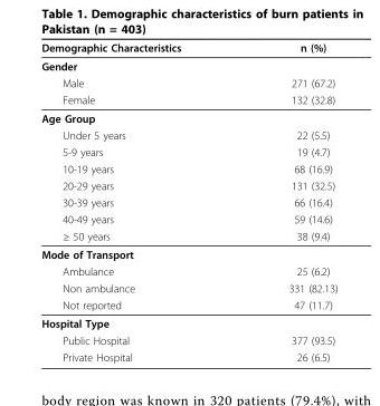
<table><thead><tr><td>Demographic Characteristics</td><td>n (%)</td></tr></thead><tbody><tr><td colspan="2">Gender</td></tr><tr><td>Male</td><td>271 (67.2)</td></tr><tr><td>Female</td><td>132 (32.8)</td></tr><tr><td colspan="2">Age Group</td></tr><tr><td>Under 5 years</td><td>22 (5.5)</td></tr><tr><td>5-9 years</td><td>19 (4.7)</td></tr><tr><td>10-19 years</td><td>68 (16.9)</td></tr><tr><td>20-29 years</td><td>131 (32.5)</td></tr><tr><td>30-39 years</td><td>66 (16.4)</td></tr><tr><td>40-49 years</td><td>59 (14.6)</td></tr><tr><td>≥ 50 years</td><td>38 (9.4)</td></tr><tr><td colspan="2">Mode of Transport</td></tr><tr><td>Ambulance</td><td>25 (6.2)</td></tr><tr><td>Non ambulance</td><td>331 (82.13)</td></tr><tr><td>Not reported</td><td>47 (11.7)</td></tr><tr><td colspan="2">Hospital Type</td></tr><tr><td>Public Hospital</td><td>377 (93.5)</td></tr><tr><td>Private Hospital</td><td>26 (6.5)</td></tr></tbody></table>